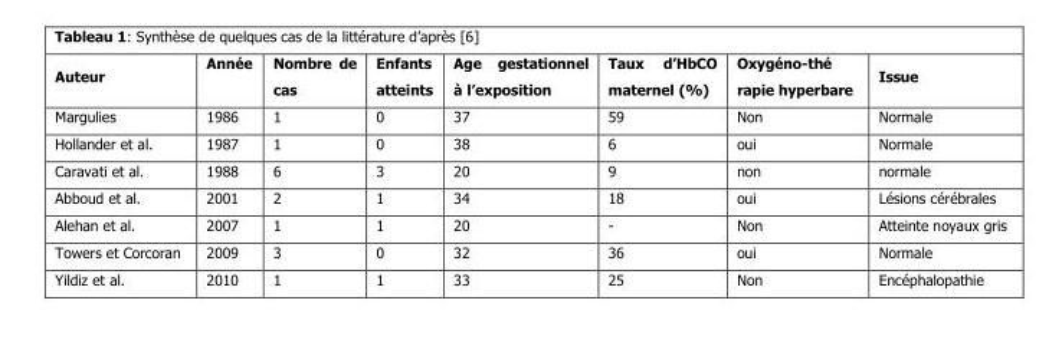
<table><thead><tr><td>Auteur</td><td>Année</td><td>Nombre de cas</td><td>Enfants atteints</td><td>Age gestationnel à l’exposition</td><td>Taux d’HbCO maternel (%)</td><td>Oxygéno-thé rapie hyperbare</td><td>Issue</td></tr></thead><tbody><tr><td>Margulies</td><td>1986</td><td>1</td><td>0</td><td>37</td><td>59</td><td>Non</td><td>Normale</td></tr><tr><td>Hollander et al.</td><td>1987</td><td>1</td><td>0</td><td>38</td><td>6</td><td>oui</td><td>Normale</td></tr><tr><td>Caravati et al.</td><td>1988</td><td>6</td><td>3</td><td>20</td><td>9</td><td>non</td><td>normale</td></tr><tr><td>Abboud et al.</td><td>2001</td><td>2</td><td>1</td><td>34</td><td>18</td><td>oui</td><td>Lésions cérébrales</td></tr><tr><td>Alehan et al.</td><td>2007</td><td>1</td><td>1</td><td>20</td><td>-</td><td>Non</td><td>Atteinte noyaux gris</td></tr><tr><td>Towers et Corcoran</td><td>2009</td><td>3</td><td>0</td><td>32</td><td>36</td><td>oui</td><td>Normale</td></tr><tr><td>Yildiz et al.</td><td>2010</td><td>1</td><td>1</td><td>33</td><td>25</td><td>Non</td><td>Encéphalopathie</td></tr></tbody></table>